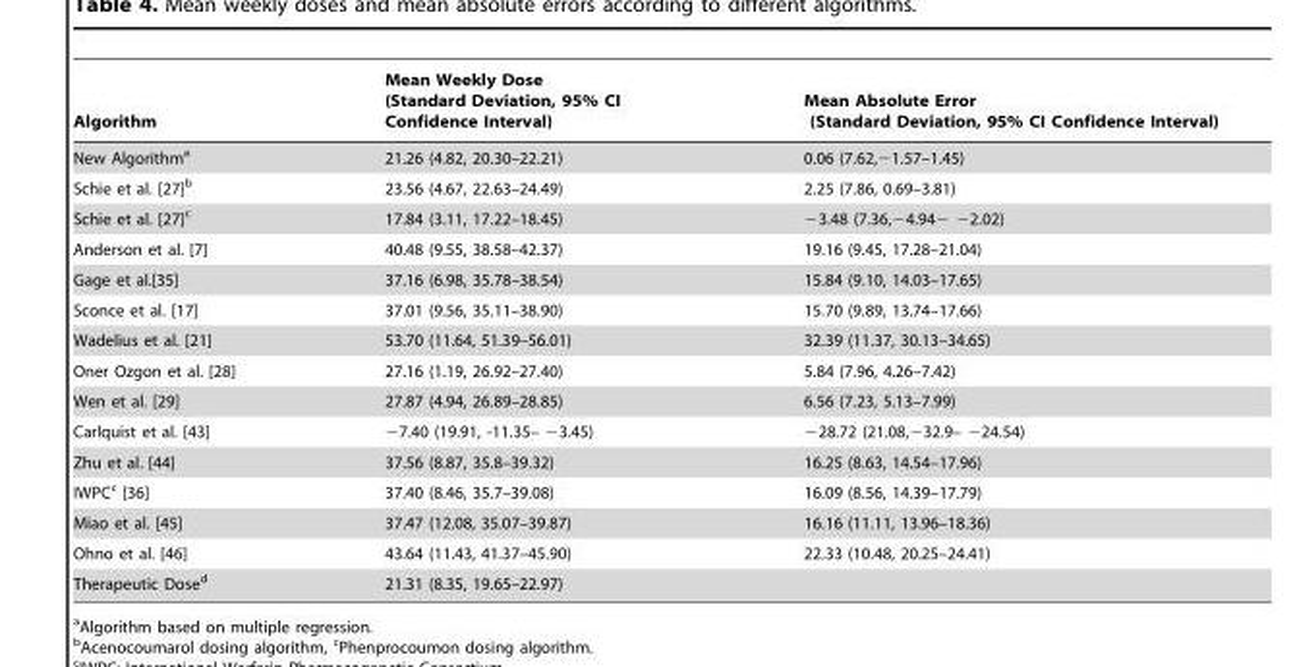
<table><thead><tr><td>Algorithm</td><td>Mean Weekly Dose (Standard Deviation, 95% CI Confidence Interval)</td><td>Mean Absolute Error (Standard Deviation, 95% CI Confidence Interval)</td></tr></thead><tbody><tr><td>New Algorithm<sup>a</sup></td><td>21.26 (4.82, 20.30–22.21)</td><td>0.06 (7.62,−1.57–1.45)</td></tr><tr><td>Schie et al. [27]b</td><td>23.56 (4.67, 22.63–24.49)</td><td>2.25 (7.86, 0.69–3.81)</td></tr><tr><td>Schie et al. [27]c</td><td>17.84 (3.11, 17.22–18.45)</td><td>−3.48 (7.36,−4.94− −2.02)</td></tr><tr><td>Anderson et al. [7]</td><td>40.48 (9.55, 38.58–42.37)</td><td>19.16 (9.45, 17.28–21.04)</td></tr><tr><td>Gage et al.[35]</td><td>37.16 (6.98, 35.78–38.54)</td><td>15.84 (9.10, 14.03–17.65)</td></tr><tr><td>Sconce et al. [17]</td><td>37.01 (9.56, 35.11–38.90)</td><td>15.70 (9.89, 13.74–17.66)</td></tr><tr><td>Wadelius et al. [21]</td><td>53.70 (11.64, 51.39–56.01)</td><td>32.39 (11.37, 30.13–34.65)</td></tr><tr><td>Oner Ozgon et al. [28]</td><td>27.16 (1.19, 26.92–27.40)</td><td>5.84 (7.96, 4.26–7.42)</td></tr><tr><td>Wen et al. [29]</td><td>27.87 (4.94, 26.89–28.85)</td><td>6.56 (7.23, 5.13–7.99)</td></tr><tr><td>Carlquist et al. [43]</td><td>−7.40 (19.91, -11.35– −3.45)</td><td>−28.72 (21.08,−32.9– −24.54)</td></tr><tr><td>Zhu et al. [44]</td><td>37.56 (8.87, 35.8–39.32)</td><td>16.25 (8.63, 14.54–17.96)</td></tr><tr><td>IWPC<sup>c</sup> [36]</td><td>37.40 (8.46, 35.7–39.08)</td><td>16.09 (8.56, 14.39–17.79)</td></tr><tr><td>Miao et al. [45]</td><td>37.47 (12.08, 35.07–39.87)</td><td>16.16 (11.11, 13.96–18.36)</td></tr><tr><td>Ohno et al. [46]</td><td>43.64 (11.43, 41.37–45.90)</td><td>22.33 (10.48, 20.25–24.41)</td></tr><tr><td>Therapeutic Dose<sup>d</sup></td><td>21.31 (8.35, 19.65–22.97)</td><td></td></tr></tbody></table>